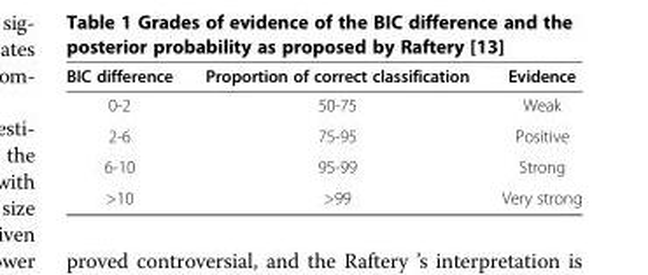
<table><thead><tr><td>BIC difference</td><td>Proportion of correct classification</td><td>Evidence</td></tr></thead><tbody><tr><td>0-2</td><td>50-75</td><td>Weak</td></tr><tr><td>2-6</td><td>75-95</td><td>Positive</td></tr><tr><td>6-10</td><td>95-99</td><td>Strong</td></tr><tr><td>&gt;10</td><td>&gt;99</td><td>Very strong</td></tr></tbody></table>